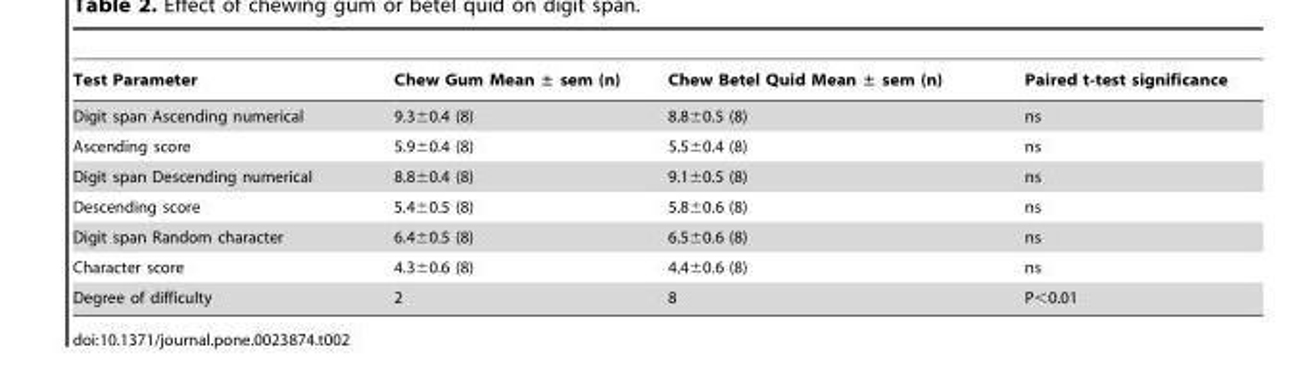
<table><thead><tr><td>Test Parameter</td><td>Chew Gum Mean ± sem (n)</td><td>Chew Betel Quid Mean ± sem (n)</td><td>Paired t-test significance</td></tr></thead><tbody><tr><td>Digit span Ascending numerical</td><td>9.3±0.4 (8)</td><td>8.8±0.5 (8)</td><td>ns</td></tr><tr><td>Ascending score</td><td>5.9±0.4 (8)</td><td>5.5±0.4 (8)</td><td>ns</td></tr><tr><td>Digit span Descending numerical</td><td>8.8±0.4 (8)</td><td>9.1±0.5 (8)</td><td>ns</td></tr><tr><td>Descending score</td><td>5.4±0.5 (8)</td><td>5.8±0.6 (8)</td><td>ns</td></tr><tr><td>Digit span Random character</td><td>6.4±0.5 (8)</td><td>6.5±0.6 (8)</td><td>ns</td></tr><tr><td>Character score</td><td>4.3±0.6 (8)</td><td>4.4±0.6 (8)</td><td>ns</td></tr><tr><td>Degree of difficulty</td><td>2</td><td>8</td><td>P&lt;0.01</td></tr></tbody></table>